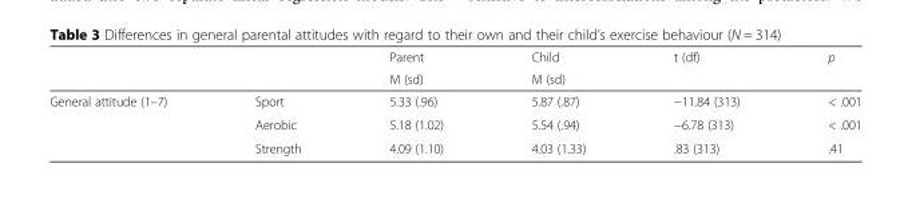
<table><thead><tr><td rowspan="2"></td><td rowspan="2"></td><td rowspan="2">Parent M (sd)</td><td rowspan="2">Child M (sd)</td><td rowspan="2">t (df)</td><td rowspan="2">p</td></tr><tr></tr></thead><tbody><tr><td rowspan="3">General attitude (1–7)</td><td>Sport</td><td>5.33 (.96)</td><td>5.87 (.87)</td><td>−11.84 (313)</td><td>&lt; .001</td></tr><tr><td>Aerobic</td><td>5.18 (1.02)</td><td>5.54 (.94)</td><td>−6.78 (313)</td><td>&lt; .001</td></tr><tr><td>Strength</td><td>4.09 (1.10)</td><td>4.03 (1.33)</td><td>.83 (313)</td><td>.41</td></tr></tbody></table>